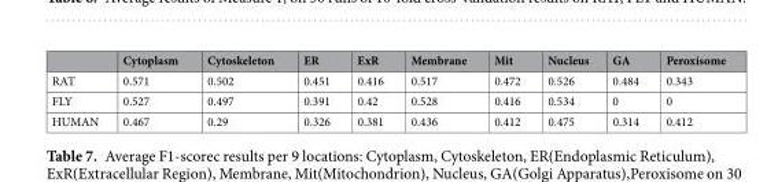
<table><thead><tr><td></td><td>Cytoplasm</td><td>Cytoskeleton</td><td>ER</td><td>ExR</td><td>Membrane</td><td>Mit</td><td>Nucleus</td><td>GA</td><td>Peroxisome</td></tr></thead><tbody><tr><td>RAT</td><td>0.571</td><td>0.502</td><td>0.451</td><td>0.416</td><td>0.517</td><td>0.472</td><td>0.526</td><td>0.484</td><td>0.343</td></tr><tr><td>FLY</td><td>0.527</td><td>0.497</td><td>0.391</td><td>0.42</td><td>0.528</td><td>0.416</td><td>0.534</td><td>0</td><td>0</td></tr><tr><td>HUMAN</td><td>0.467</td><td>0.29</td><td>0.326</td><td>0.381</td><td>0.436</td><td>0.412</td><td>0.475</td><td>0.314</td><td>0.412</td></tr></tbody></table>